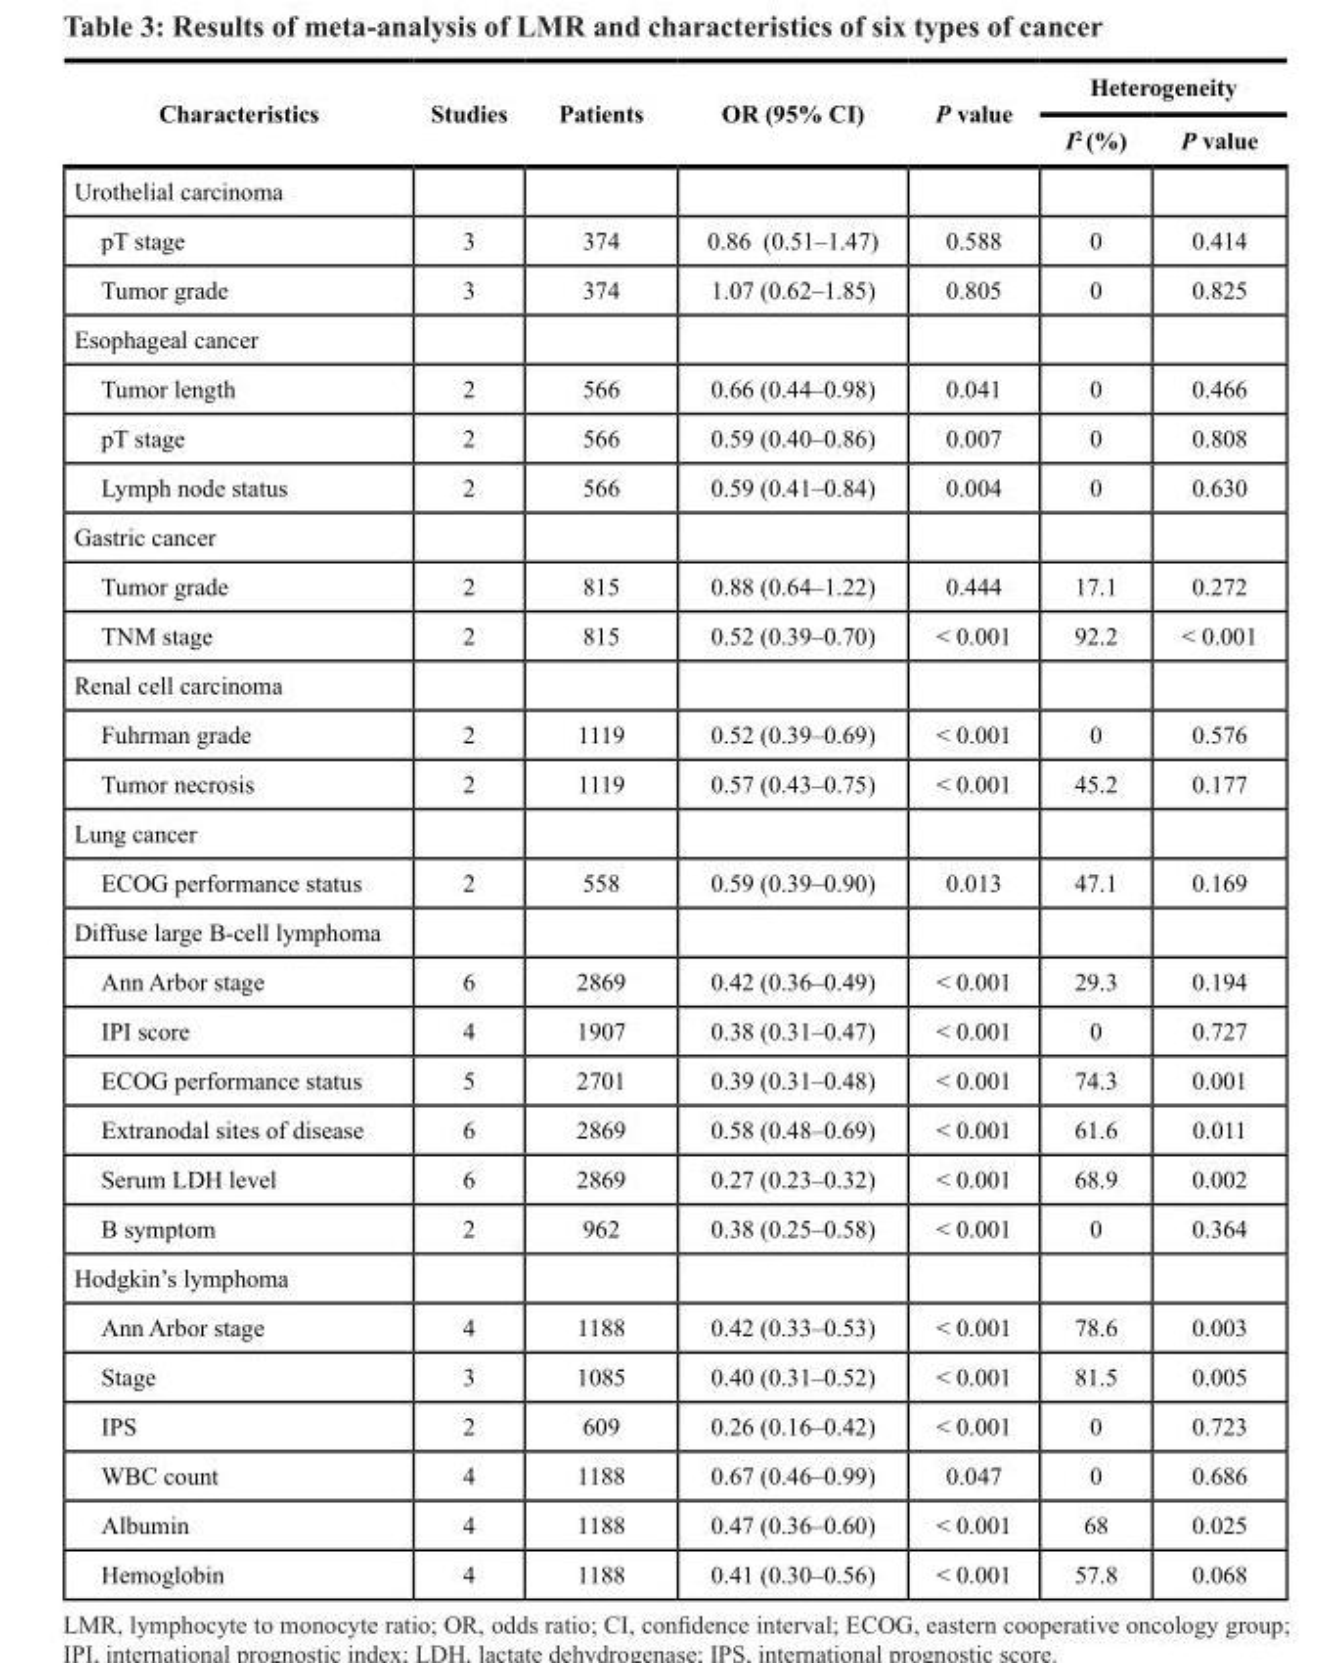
<table><thead><tr><td rowspan="2">Characteristics</td><td rowspan="2">Studies</td><td rowspan="2">Patients</td><td rowspan="2">OR (95% CI)</td><td rowspan="2">P value</td><td colspan="2">Heterogeneity</td></tr><tr><td>I<sup>2</sup> (%)</td><td>P value</td></tr></thead><tbody><tr><td colspan="7">Urothelial carcinoma</td></tr><tr><td>pT stage</td><td>3</td><td>374</td><td>0.86 (0.51–1.47)</td><td>0.588</td><td>0</td><td>0.414</td></tr><tr><td>Tumor grade</td><td>3</td><td>374</td><td>1.07 (0.62–1.85)</td><td>0.805</td><td>0</td><td>0.825</td></tr><tr><td colspan="7">Esophageal cancer</td></tr><tr><td>Tumor length</td><td>2</td><td>566</td><td>0.66 (0.44–0.98)</td><td>0.041</td><td>0</td><td>0.466</td></tr><tr><td>pT stage</td><td>2</td><td>566</td><td>0.59 (0.40–0.86)</td><td>0.007</td><td>0</td><td>0.808</td></tr><tr><td>Lymph node status</td><td>2</td><td>566</td><td>0.59 (0.41–0.84)</td><td>0.004</td><td>0</td><td>0.630</td></tr><tr><td colspan="7">Gastric cancer</td></tr><tr><td>Tumor grade</td><td>2</td><td>815</td><td>0.88 (0.64–1.22)</td><td>0.444</td><td>17.1</td><td>0.272</td></tr><tr><td>TNM stage</td><td>2</td><td>815</td><td>0.52 (0.39–0.70)</td><td>&lt; 0.001</td><td>92.2</td><td>&lt; 0.001</td></tr><tr><td colspan="7">Renal cell carcinoma</td></tr><tr><td>Fuhrman grade</td><td>2</td><td>1119</td><td>0.52 (0.39–0.69)</td><td>&lt; 0.001</td><td>0</td><td>0.576</td></tr><tr><td>Tumor necrosis</td><td>2</td><td>1119</td><td>0.57 (0.43–0.75)</td><td>&lt; 0.001</td><td>45.2</td><td>0.177</td></tr><tr><td colspan="7">Lung cancer</td></tr><tr><td>ECOG performance status</td><td>2</td><td>558</td><td>0.59 (0.39–0.90)</td><td>0.013</td><td>47.1</td><td>0.169</td></tr><tr><td colspan="7">Diffuse large B-cell lymphoma</td></tr><tr><td>Ann Arbor stage</td><td>6</td><td>2869</td><td>0.42 (0.36–0.49)</td><td>&lt; 0.001</td><td>29.3</td><td>0.194</td></tr><tr><td>IPI score</td><td>4</td><td>1907</td><td>0.38 (0.31–0.47)</td><td>&lt; 0.001</td><td>0</td><td>0.727</td></tr><tr><td>ECOG performance status</td><td>5</td><td>2701</td><td>0.39 (0.31–0.48)</td><td>&lt; 0.001</td><td>74.3</td><td>0.001</td></tr><tr><td>Extranodal sites of disease</td><td>6</td><td>2869</td><td>0.58 (0.48–0.69)</td><td>&lt; 0.001</td><td>61.6</td><td>0.011</td></tr><tr><td>Serum LDH level</td><td>6</td><td>2869</td><td>0.27 (0.23–0.32)</td><td>&lt; 0.001</td><td>68.9</td><td>0.002</td></tr><tr><td>B symptom</td><td>2</td><td>962</td><td>0.38 (0.25–0.58)</td><td>&lt; 0.001</td><td>0</td><td>0.364</td></tr><tr><td colspan="7">Hodgkin’s lymphoma</td></tr><tr><td>Ann Arbor stage</td><td>4</td><td>1188</td><td>0.42 (0.33–0.53)</td><td>&lt; 0.001</td><td>78.6</td><td>0.003</td></tr><tr><td>Stage</td><td>3</td><td>1085</td><td>0.40 (0.31–0.52)</td><td>&lt; 0.001</td><td>81.5</td><td>0.005</td></tr><tr><td>IPS</td><td>2</td><td>609</td><td>0.26 (0.16–0.42)</td><td>&lt; 0.001</td><td>0</td><td>0.723</td></tr><tr><td>WBC count</td><td>4</td><td>1188</td><td>0.67 (0.46–0.99)</td><td>0.047</td><td>0</td><td>0.686</td></tr><tr><td>Albumin</td><td>4</td><td>1188</td><td>0.47 (0.36–0.60)</td><td>&lt; 0.001</td><td>68</td><td>0.025</td></tr><tr><td>Hemoglobin</td><td>4</td><td>1188</td><td>0.41 (0.30–0.56)</td><td>&lt; 0.001</td><td>57.8</td><td>0.068</td></tr></tbody></table>